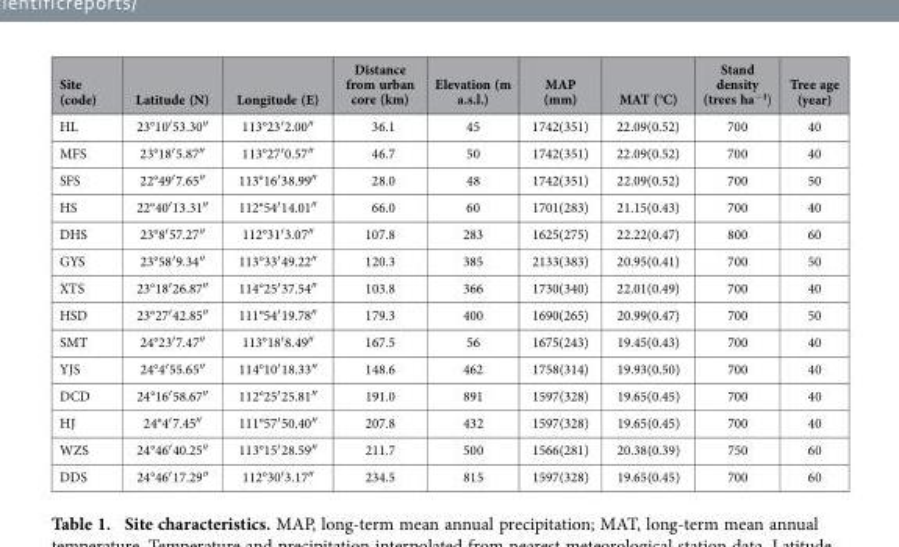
<table><thead><tr><td>Site (code)</td><td>Latitude (N)</td><td>Longitude (E)</td><td>Distance from urban core (km)</td><td>Elevation (m a.s.l.)</td><td>MAP (mm)</td><td>MAT (°C)</td><td>Stand density (trees ha<sup>−1</sup>)</td><td>Tree age (year)</td></tr></thead><tbody><tr><td>HL</td><td>23°10′ 53.30″</td><td>113°23′ 2.00″</td><td>36.1</td><td>45</td><td>1742(351)</td><td>22.09(0.52)</td><td>700</td><td>40</td></tr><tr><td>MFS</td><td>23°18′ 5.87″</td><td>113°27′ 0.57″</td><td>46.7</td><td>50</td><td>1742(351)</td><td>22.09(0.52)</td><td>700</td><td>40</td></tr><tr><td>SFS</td><td>22°49′ 7.65″</td><td>113°16′ 38.99″</td><td>28.0</td><td>48</td><td>1742(351)</td><td>22.09(0.52)</td><td>700</td><td>50</td></tr><tr><td>HS</td><td>22°40′ 13.31″</td><td>112°54′ 14.01″</td><td>66.0</td><td>60</td><td>1701(283)</td><td>21.15(0.43)</td><td>700</td><td>40</td></tr><tr><td>DHS</td><td>23°8′ 57.27″</td><td>112°31′ 3.07″</td><td>107.8</td><td>283</td><td>1625(275)</td><td>22.22(0.47)</td><td>800</td><td>60</td></tr><tr><td>GYS</td><td>23°58′ 9.34″</td><td>113°33′ 49.22″</td><td>120.3</td><td>385</td><td>2133(383)</td><td>20.95(0.41)</td><td>700</td><td>50</td></tr><tr><td>XTS</td><td>23°18′ 26.87″</td><td>114°25′ 37.54″</td><td>103.8</td><td>366</td><td>1730(340)</td><td>22.01(0.49)</td><td>700</td><td>40</td></tr><tr><td>HSD</td><td>23°27′ 42.85″</td><td>111°54′ 19.78″</td><td>179.3</td><td>400</td><td>1690(265)</td><td>20.99(0.47)</td><td>700</td><td>50</td></tr><tr><td>SMT</td><td>24°23′ 7.47″</td><td>113°18′ 8.49″</td><td>167.5</td><td>56</td><td>1675(243)</td><td>19.45(0.43)</td><td>700</td><td>40</td></tr><tr><td>YJS</td><td>24°4′ 55.65″</td><td>114°10′ 18.33″</td><td>148.6</td><td>462</td><td>1758(314)</td><td>19.93(0.50)</td><td>700</td><td>40</td></tr><tr><td>DCD</td><td>24°16′ 58.67″</td><td>112°25′ 25.81″</td><td>191.0</td><td>891</td><td>1597(328)</td><td>19.65(0.45)</td><td>700</td><td>40</td></tr><tr><td>HJ</td><td>24°4′ 7.45″</td><td>111°57′ 50.40″</td><td>207.8</td><td>432</td><td>1597(328)</td><td>19.65(0.45)</td><td>700</td><td>40</td></tr><tr><td>WZS</td><td>24°46′ 40.25″</td><td>113°15′ 28.59″</td><td>211.7</td><td>500</td><td>1566(281)</td><td>20.38(0.39)</td><td>750</td><td>60</td></tr><tr><td>DDS</td><td>24°46′ 17.29″</td><td>112°30′ 3.17″</td><td>234.5</td><td>815</td><td>1597(328)</td><td>19.65(0.45)</td><td>700</td><td>60</td></tr></tbody></table>